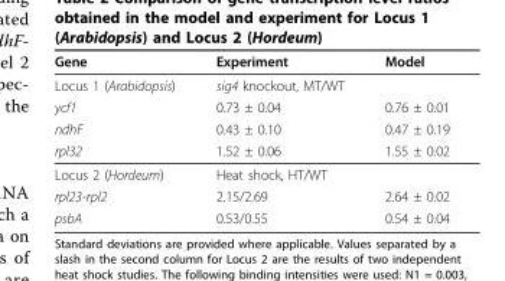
<table><thead><tr><td>Gene</td><td>Experiment</td><td>Model</td></tr></thead><tbody><tr><td>Locus 1 (Arabidopsis)</td><td>sig4 knockout, MT/WT</td><td></td></tr><tr><td>ycf1</td><td>0.73 ± 0.04</td><td>0.76 ± 0.01</td></tr><tr><td>ndhF</td><td>0.43 ± 0.10</td><td>0.47 ± 0.19</td></tr><tr><td>rpl32</td><td>1.52 ± 0.06</td><td>1.55 ± 0.02</td></tr><tr><td>Locus 2 (Hordeum)</td><td>Heat shock, HT/WT</td><td></td></tr><tr><td>rpl23-rpl2</td><td>2.15/2.69</td><td>2.64 ± 0.02</td></tr><tr><td>psbA</td><td>0.53/0.55</td><td>0.54 ± 0.04</td></tr></tbody></table>